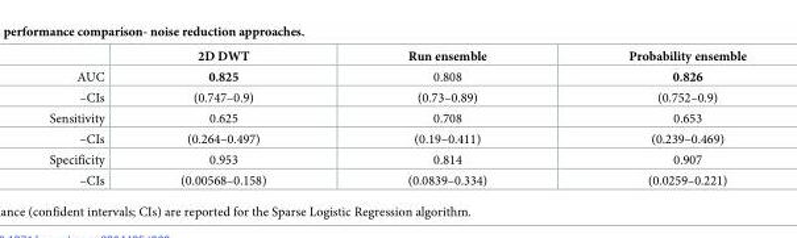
<table><thead><tr><td></td><td>2D DWT</td><td>Run ensemble</td><td>Probability ensemble</td></tr></thead><tbody><tr><td>AUC</td><td>0.825</td><td>0.808</td><td>0.826</td></tr><tr><td>–CIs</td><td>(0.747–0.9)</td><td>(0.73–0.89)</td><td>(0.752–0.9)</td></tr><tr><td>Sensitivity</td><td>0.625</td><td>0.708</td><td>0.653</td></tr><tr><td>–CIs</td><td>(0.264–0.497)</td><td>(0.19–0.411)</td><td>(0.239–0.469)</td></tr><tr><td>Specificity</td><td>0.953</td><td>0.814</td><td>0.907</td></tr><tr><td>–CIs</td><td>(0.00568–0.158)</td><td>(0.0839–0.334)</td><td>(0.0259–0.221)</td></tr></tbody></table>